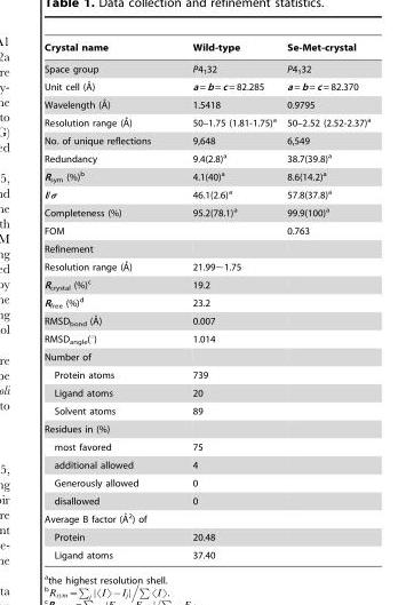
<table><thead><tr><td>Crystal name</td><td>Wild-type</td><td>Se-Met-crystal</td></tr></thead><tbody><tr><td>Space group</td><td>P4<sub>1</sub>32</td><td>P4<sub>1</sub>32</td></tr><tr><td>Unit cell (A˚)</td><td>a = b = c = 82.285</td><td>a = b = c = 82.370</td></tr><tr><td>Wavelength (A˚)</td><td>1.5418</td><td>0.9795</td></tr><tr><td>Resolution range (A˚)</td><td>50–1.75 (1.81-1.75)<sup>a</sup></td><td>50–2.52 (2.52-2.37)<sup>a</sup></td></tr><tr><td>No. of unique reflections</td><td>9,648</td><td>6,549</td></tr><tr><td>Redundancy</td><td>9.4(2.8)<sup>a</sup></td><td>38.7(39.8)<sup>a</sup></td></tr><tr><td>R<sub>sym</sub> (%)<sup>b</sup></td><td>4.1(40)<sup>a</sup></td><td>8.6(14.2)<sup>a</sup></td></tr><tr><td>I/σ</td><td>46.1(2.6)<sup>a</sup></td><td>57.8(37.8)<sup>a</sup></td></tr><tr><td>Completeness (%)</td><td>95.2(78.1)<sup>a</sup></td><td>99.9(100)<sup>a</sup></td></tr><tr><td>FOM</td><td></td><td>0.763</td></tr><tr><td colspan="3">Refinement</td></tr><tr><td>Resolution range (A˚)</td><td>21.99∼1.75</td><td></td></tr><tr><td>R<sub>crystal</sub> (%)<sup>c</sup></td><td>19.2</td><td></td></tr><tr><td>R<sub>free</sub> (%)<sup>d</sup></td><td>23.2</td><td></td></tr><tr><td>RMSDbond (A˚)</td><td>0.007</td><td></td></tr><tr><td>RMSD<sub>angle</sub>(°)</td><td>1.014</td><td></td></tr><tr><td colspan="3">Number of</td></tr><tr><td>Protein atoms</td><td>739</td><td></td></tr><tr><td>Ligand atoms</td><td>20</td><td></td></tr><tr><td>Solvent atoms</td><td>89</td><td></td></tr><tr><td colspan="3">Residues in (%)</td></tr><tr><td>most favored</td><td>75</td><td></td></tr><tr><td>additional allowed</td><td>4</td><td></td></tr><tr><td>Generously allowed</td><td>0</td><td></td></tr><tr><td>disallowed</td><td>0</td><td></td></tr><tr><td colspan="3">Average B factor (A˚ 2) of</td></tr><tr><td>Protein</td><td>20.48</td><td></td></tr><tr><td>Ligand atoms</td><td>37.40</td><td></td></tr></tbody></table>